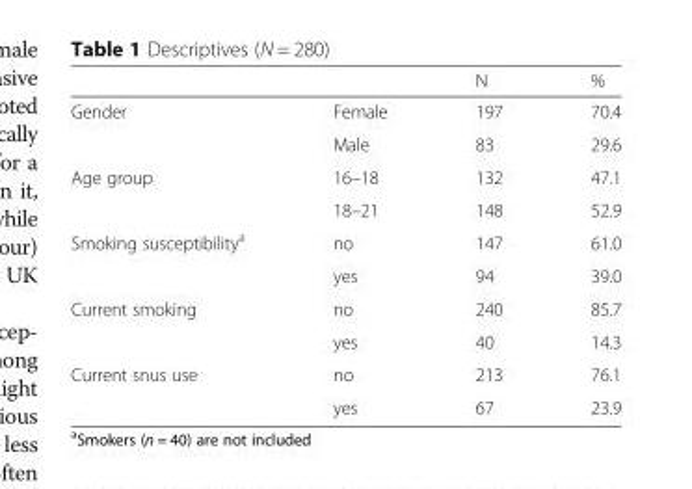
<table><thead><tr><td></td><td></td><td>N</td><td>%</td></tr></thead><tbody><tr><td rowspan="2">Gender</td><td>Female</td><td>197</td><td>70.4</td></tr><tr><td>Male</td><td>83</td><td>29.6</td></tr><tr><td rowspan="2">Age group</td><td>16–18</td><td>132</td><td>47.1</td></tr><tr><td>18–21</td><td>148</td><td>52.9</td></tr><tr><td rowspan="2">Smoking susceptibility<sup>a</sup></td><td>no</td><td>147</td><td>61.0</td></tr><tr><td>yes</td><td>94</td><td>39.0</td></tr><tr><td rowspan="2">Current smoking</td><td>no</td><td>240</td><td>85.7</td></tr><tr><td>yes</td><td>40</td><td>14.3</td></tr><tr><td rowspan="2">Current snus use</td><td>no</td><td>213</td><td>76.1</td></tr><tr><td>yes</td><td>67</td><td>23.9</td></tr></tbody></table>